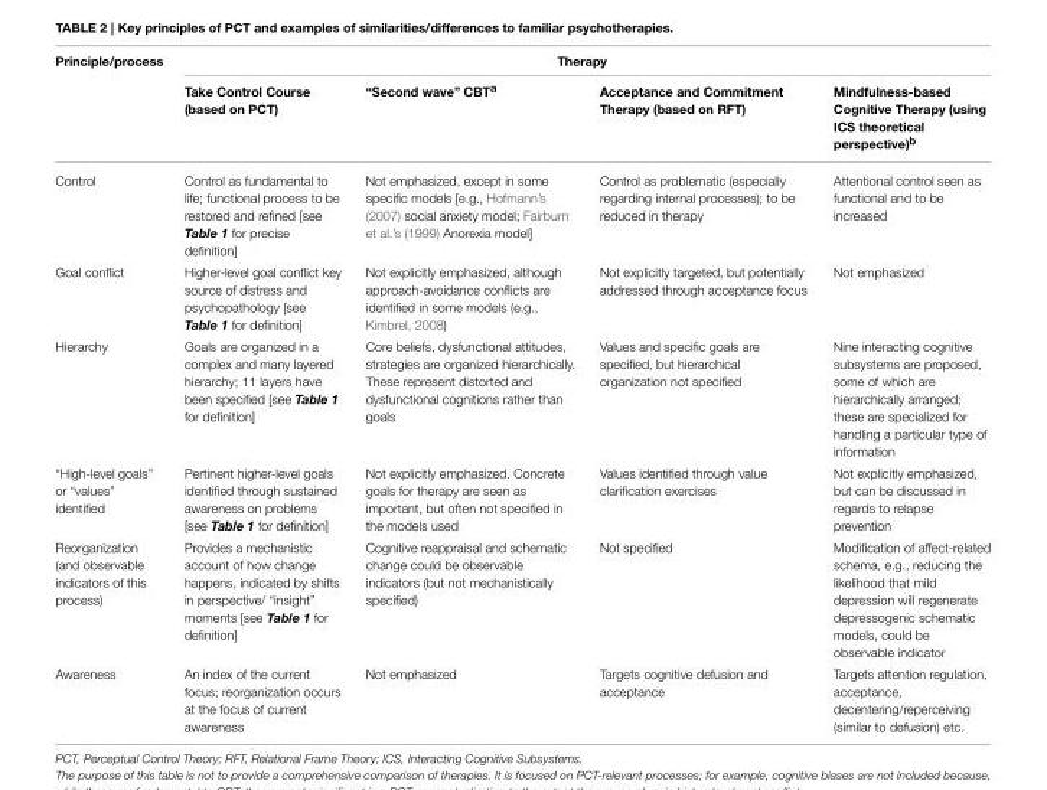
<table><thead><tr><td rowspan="2">Principle/process</td><td colspan="4">Therapy</td></tr><tr><td>Take Control Course (based on PCT)</td><td>“Second wave” CBT<sup>a</sup></td><td>Acceptance and Commitment Therapy (based on RFT)</td><td>Mindfulness-based Cognitive Therapy (using ICS theoretical perspective)<sup>b</sup></td></tr></thead><tbody><tr><td>Control</td><td>Control as fundamental to life; functional process to be restored and refined [see Table 1 for precise definition]</td><td>Not emphasized, except in some specific models [e.g., Hofmann’s (2007) social anxiety model; Fairburn et al.’s (1999) Anorexia model]</td><td>Control as problematic (especially regarding internal processes); to be reduced in therapy</td><td>Attentional control seen as functional and to be increased</td></tr><tr><td>Goal conflict</td><td>Higher-level goal conflict key source of distress and psychopathology [see Table 1 for definition]</td><td>Not explicitly emphasized, although approach-avoidance conflicts are identified in some models (e.g., Kimbrel, 2008)</td><td>Not explicitly targeted, but potentially addressed through acceptance focus</td><td>Not emphasized</td></tr><tr><td>Hierarchy</td><td>Goals are organized in a complex and many layered hierarchy; 11 layers have been specified [see Table 1 for definition]</td><td>Core beliefs, dysfunctional attitudes, strategies are organized hierarchically. These represent distorted and dysfunctional cognitions rather than goals</td><td>Values and specific goals are specified, but hierarchical organization not specified</td><td>Nine interacting cognitive subsystems are proposed, some of which are hierarchically arranged; these are specialized for handling a particular type of information</td></tr><tr><td>“High-level goals” or “values” identified</td><td>Pertinent higher-level goals identified through sustained awareness on problems [see Table 1 for definition]</td><td>Not explicitly emphasized. Concrete goals for therapy are seen as important, but often not specified in the models used</td><td>Values identified through value clarification exercises</td><td>Not explicitly emphasized, but can be discussed in regards to relapse prevention</td></tr><tr><td>Reorganization (and observable indicators of this process)</td><td>Provides a mechanistic account of how change happens, indicated by shifts in perspective/ “insight” moments [see Table 1 for definition]</td><td>Cognitive reappraisal and schematic change could be observable indicators (but not mechanistically specified)</td><td>Not specified</td><td>Modification of affect-related schema, e.g., reducing the likelihood that mild depression will regenerate depressogenic schematic models, could be observable indicator</td></tr><tr><td>Awareness</td><td>An index of the current focus; reorganization occurs at the focus of current awareness</td><td>Not emphasized</td><td>Targets cognitive defusion and acceptance</td><td>Targets attention regulation, acceptance, decentering/reperceiving (similar to defusion) etc.</td></tr></tbody></table>